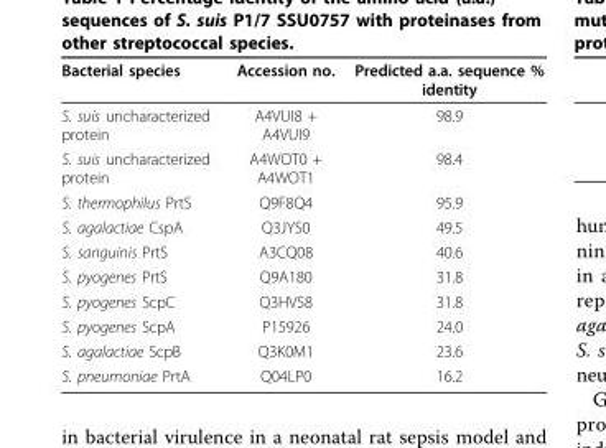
<table><thead><tr><td>Bacterial species</td><td>Accession no.</td><td>Predicted a.a. sequence % identity</td></tr></thead><tbody><tr><td>S. suis uncharacterized protein</td><td>A4VUI8 + A4VUI9</td><td>98.9</td></tr><tr><td>S. suis uncharacterized protein</td><td>A4WOT0 + A4WOT1</td><td>98.4</td></tr><tr><td>S. thermophilus PrtS</td><td>Q9F8Q4</td><td>95.9</td></tr><tr><td>S. agalactiae CspA</td><td>Q3JYS0</td><td>49.5</td></tr><tr><td>S. sanguinis PrtS</td><td>A3CQ08</td><td>40.6</td></tr><tr><td>S. pyogenes PrtS</td><td>Q9A180</td><td>31.8</td></tr><tr><td>S. pyogenes ScpC</td><td>Q3HV58</td><td>31.8</td></tr><tr><td>S. pyogenes ScpA</td><td>P15926</td><td>24.0</td></tr><tr><td>S. agalactiae ScpB</td><td>Q3K0M1</td><td>23.6</td></tr><tr><td>S. pneumoniae PrtA</td><td>Q04LP0</td><td>16.2</td></tr></tbody></table>